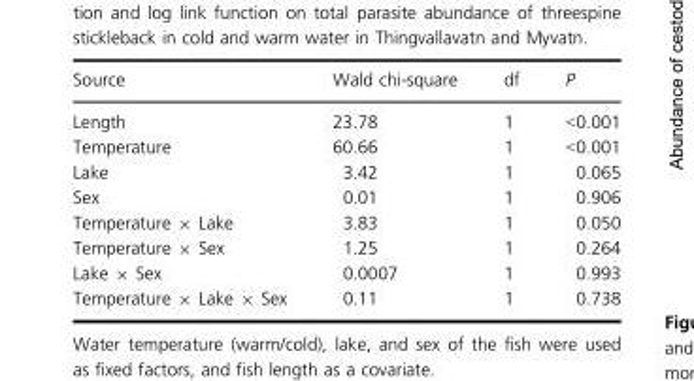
<table><thead><tr><td>Source</td><td>Wald chi-square</td><td>df</td><td>P</td></tr></thead><tbody><tr><td>Length</td><td>23.78</td><td>1</td><td>&lt;0.001</td></tr><tr><td>Temperature</td><td>60.66</td><td>1</td><td>&lt;0.001</td></tr><tr><td>Lake</td><td>3.42</td><td>1</td><td>0.065</td></tr><tr><td>Sex</td><td>0.01</td><td>1</td><td>0.906</td></tr><tr><td>Temperature × Lake</td><td>3.83</td><td>1</td><td>0.050</td></tr><tr><td>Temperature × Sex</td><td>1.25</td><td>1</td><td>0.264</td></tr><tr><td>Lake × Sex</td><td>0.0007</td><td>1</td><td>0.993</td></tr><tr><td>Temperature × Lake × Sex</td><td>0.11</td><td>1</td><td>0.738</td></tr></tbody></table>